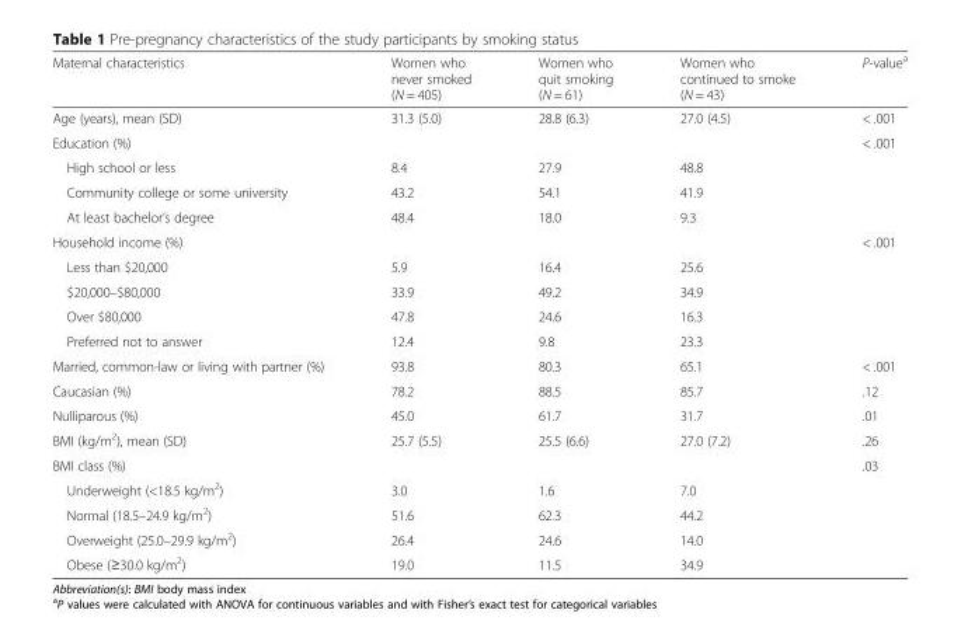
<table><thead><tr><td>Maternal characteristics</td><td>Women who never smoked (N = 405)</td><td>Women who quit smoking (N = 61)</td><td>Women who continued to smoke (N = 43)</td><td>P-value<sup>a</sup></td></tr></thead><tbody><tr><td>Age (years), mean (SD)</td><td>31.3 (5.0)</td><td>28.8 (6.3)</td><td>27.0 (4.5)</td><td>&lt; .001</td></tr><tr><td>Education (%)</td><td></td><td></td><td></td><td>&lt; .001</td></tr><tr><td>High school or less</td><td>8.4</td><td>27.9</td><td>48.8</td><td></td></tr><tr><td>Community college or some university</td><td>43.2</td><td>54.1</td><td>41.9</td><td></td></tr><tr><td>At least bachelor’s degree</td><td>48.4</td><td>18.0</td><td>9.3</td><td></td></tr><tr><td>Household income (%)</td><td></td><td></td><td></td><td>&lt; .001</td></tr><tr><td>Less than $20,000</td><td>5.9</td><td>16.4</td><td>25.6</td><td></td></tr><tr><td>$20,000–$80,000</td><td>33.9</td><td>49.2</td><td>34.9</td><td></td></tr><tr><td>Over $80,000</td><td>47.8</td><td>24.6</td><td>16.3</td><td></td></tr><tr><td>Preferred not to answer</td><td>12.4</td><td>9.8</td><td>23.3</td><td></td></tr><tr><td>Married, common-law or living with partner (%)</td><td>93.8</td><td>80.3</td><td>65.1</td><td>&lt; .001</td></tr><tr><td>Caucasian (%)</td><td>78.2</td><td>88.5</td><td>85.7</td><td>.12</td></tr><tr><td>Nulliparous (%)</td><td>45.0</td><td>61.7</td><td>31.7</td><td>.01</td></tr><tr><td>BMI (kg/m<sup>2</sup>), mean (SD)</td><td>25.7 (5.5)</td><td>25.5 (6.6)</td><td>27.0 (7.2)</td><td>.26</td></tr><tr><td>BMI class (%)</td><td></td><td></td><td></td><td>.03</td></tr><tr><td>Underweight (&lt;18.5 kg/m<sup>2</sup>)</td><td>3.0</td><td>1.6</td><td>7.0</td><td></td></tr><tr><td>Normal (18.5–24.9 kg/m<sup>2</sup>)</td><td>51.6</td><td>62.3</td><td>44.2</td><td></td></tr><tr><td>Overweight (25.0–29.9 kg/m<sup>2</sup>)</td><td>26.4</td><td>24.6</td><td>14.0</td><td></td></tr><tr><td>Obese (≥30.0 kg/m<sup>2</sup>)</td><td>19.0</td><td>11.5</td><td>34.9</td><td></td></tr></tbody></table>